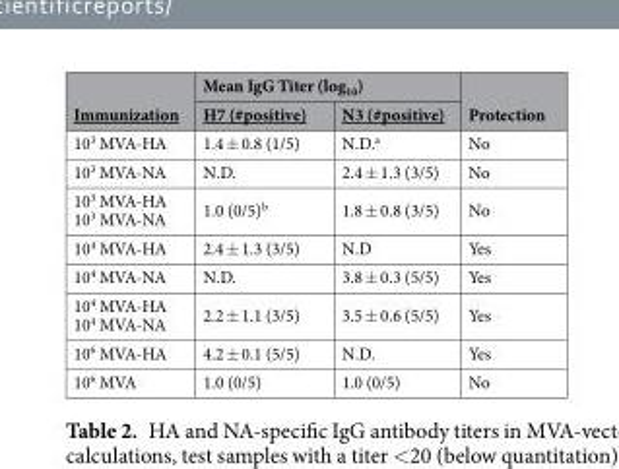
<table><thead><tr><td rowspan="2">Immunization</td><td colspan="2">Mean IgG Titer (log<sub>10</sub>)</td><td rowspan="2">Protection</td></tr><tr><td>H7 (#positive)</td><td>N3 (#positive)</td></tr></thead><tbody><tr><td>10<sup>3</sup> MVA-HA</td><td>1.4 ± 0.8 (1/5)</td><td>N.D.<sup>a</sup></td><td>No</td></tr><tr><td>10<sup>3</sup> MVA-NA</td><td>N.D.</td><td>2.4 ± 1.3 (3/5)</td><td>No</td></tr><tr><td>10<sup>3</sup> MVA-HA 10<sup>3</sup> MVA-NA</td><td>1.0 (0/5)<sup>b</sup></td><td>1.8 ± 0.8 (3/5)</td><td>No</td></tr><tr><td>10<sup>4</sup> MVA-HA</td><td>2.4 ± 1.3 (3/5)</td><td>N.D</td><td>Yes</td></tr><tr><td>10<sup>4</sup> MVA-NA</td><td>N.D.</td><td>3.8 ± 0.3 (5/5)</td><td>Yes</td></tr><tr><td>10<sup>4</sup> MVA-HA 10<sup>4</sup> MVA-NA</td><td>2.2 ± 1.1 (3/5)</td><td>3.5 ± 0.6 (5/5)</td><td>Yes</td></tr><tr><td>10<sup>6</sup> MVA-HA</td><td>4.2 ± 0.1 (5/5)</td><td>N.D.</td><td>Yes</td></tr><tr><td>10<sup>6</sup> MVA</td><td>1.0 (0/5)</td><td>1.0 (0/5)</td><td>No</td></tr></tbody></table>